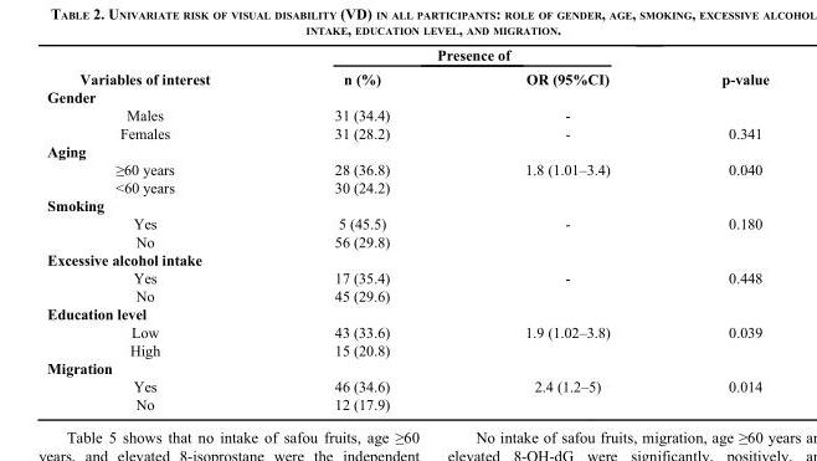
<table><thead><tr><td rowspan="2">Variables of interest</td><td colspan="2">Presence of</td><td rowspan="2">p-value</td></tr><tr><td>n (%)</td><td>OR (95%CI)</td></tr></thead><tbody><tr><td colspan="4">Gender</td></tr><tr><td>Males</td><td>31 (34.4)</td><td>-</td><td></td></tr><tr><td>Females</td><td>31 (28.2)</td><td>-</td><td>0.341</td></tr><tr><td colspan="4">Aging</td></tr><tr><td>≥60 years</td><td>28 (36.8)</td><td>1.8 (1.01–3.4)</td><td>0.040</td></tr><tr><td>&lt;60 years</td><td>30 (24.2)</td><td></td><td></td></tr><tr><td colspan="4">Smoking</td></tr><tr><td>Yes</td><td>5 (45.5)</td><td>-</td><td>0.180</td></tr><tr><td>No</td><td>56 (29.8)</td><td></td><td></td></tr><tr><td colspan="4">Excessive alcohol intake</td></tr><tr><td>Yes</td><td>17 (35.4)</td><td>-</td><td>0.448</td></tr><tr><td>No</td><td>45 (29.6)</td><td></td><td></td></tr><tr><td colspan="4">Education level</td></tr><tr><td>Low</td><td>43 (33.6)</td><td>1.9 (1.02–3.8)</td><td>0.039</td></tr><tr><td>High</td><td>15 (20.8)</td><td></td><td></td></tr><tr><td colspan="4">Migration</td></tr><tr><td>Yes</td><td>46 (34.6)</td><td>2.4 (1.2–5)</td><td>0.014</td></tr><tr><td>No</td><td>12 (17.9)</td><td></td><td></td></tr></tbody></table>